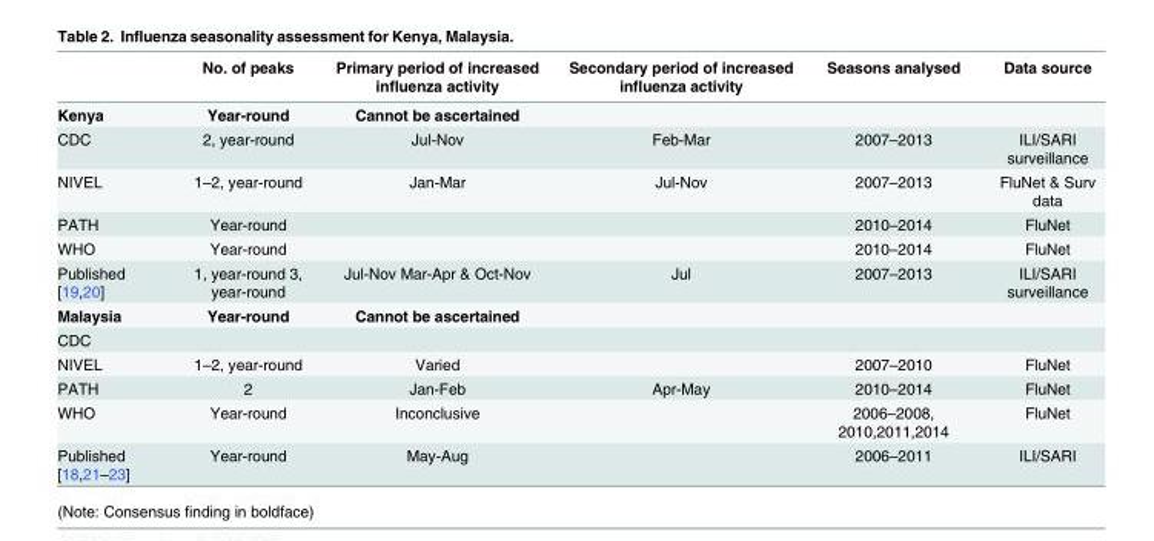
<table><thead><tr><td></td><td>No. of peaks</td><td>Primary period of increased influenza activity</td><td>Secondary period of increased influenza activity</td><td>Seasons analysed</td><td>Data source</td></tr></thead><tbody><tr><td>Kenya</td><td>Year-round</td><td>Cannot be ascertained</td><td></td><td></td><td></td></tr><tr><td>CDC</td><td>2, year-round</td><td>Jul-Nov</td><td>Feb-Mar</td><td>2007–2013</td><td>ILI/SARI surveillance</td></tr><tr><td>NIVEL</td><td>1–2, year-round</td><td>Jan-Mar</td><td>Jul-Nov</td><td>2007–2013</td><td>FluNet &amp; Surv data</td></tr><tr><td>PATH</td><td>Year-round</td><td></td><td></td><td>2010–2014</td><td>FluNet</td></tr><tr><td>WHO</td><td>Year-round</td><td></td><td></td><td>2010–2014</td><td>FluNet</td></tr><tr><td>Published [19,20]</td><td>1, year-round 3, year-round</td><td>Jul-Nov Mar-Apr &amp; Oct-Nov</td><td>Jul</td><td>2007–2013</td><td>ILI/SARI surveillance</td></tr><tr><td>Malaysia</td><td>Year-round</td><td>Cannot be ascertained</td><td></td><td></td><td></td></tr><tr><td colspan="6">CDC</td></tr><tr><td>NIVEL</td><td>1–2, year-round</td><td>Varied</td><td></td><td>2007–2010</td><td>FluNet</td></tr><tr><td>PATH</td><td>2</td><td>Jan-Feb</td><td>Apr-May</td><td>2010–2014</td><td>FluNet</td></tr><tr><td>WHO</td><td>Year-round</td><td>Inconclusive</td><td></td><td>2006–2008, 2010,2011,2014</td><td>FluNet</td></tr><tr><td>Published [18,21–23]</td><td>Year-round</td><td>May-Aug</td><td></td><td>2006–2011</td><td>ILI/SARI</td></tr></tbody></table>